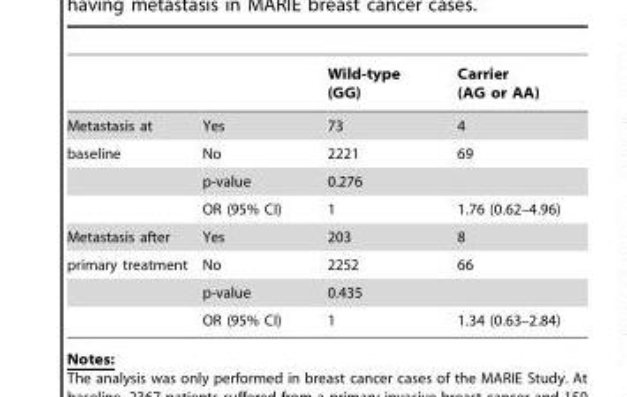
<table><thead><tr><td></td><td></td><td>Wild-type (GG)</td><td>Carrier (AG or AA)</td></tr></thead><tbody><tr><td>Metastasis at</td><td>Yes</td><td>73</td><td>4</td></tr><tr><td rowspan="3">baseline</td><td>No</td><td>2221</td><td>69</td></tr><tr><td>p-value</td><td>0.276</td><td></td></tr><tr><td>OR (95% CI)</td><td>1</td><td>1.76 (0.62–4.96)</td></tr><tr><td>Metastasis after</td><td>Yes</td><td>203</td><td>8</td></tr><tr><td rowspan="3">primary treatment</td><td>No</td><td>2252</td><td>66</td></tr><tr><td>p-value</td><td>0.435</td><td></td></tr><tr><td>OR (95% CI)</td><td>1</td><td>1.34 (0.63–2.84)</td></tr></tbody></table>